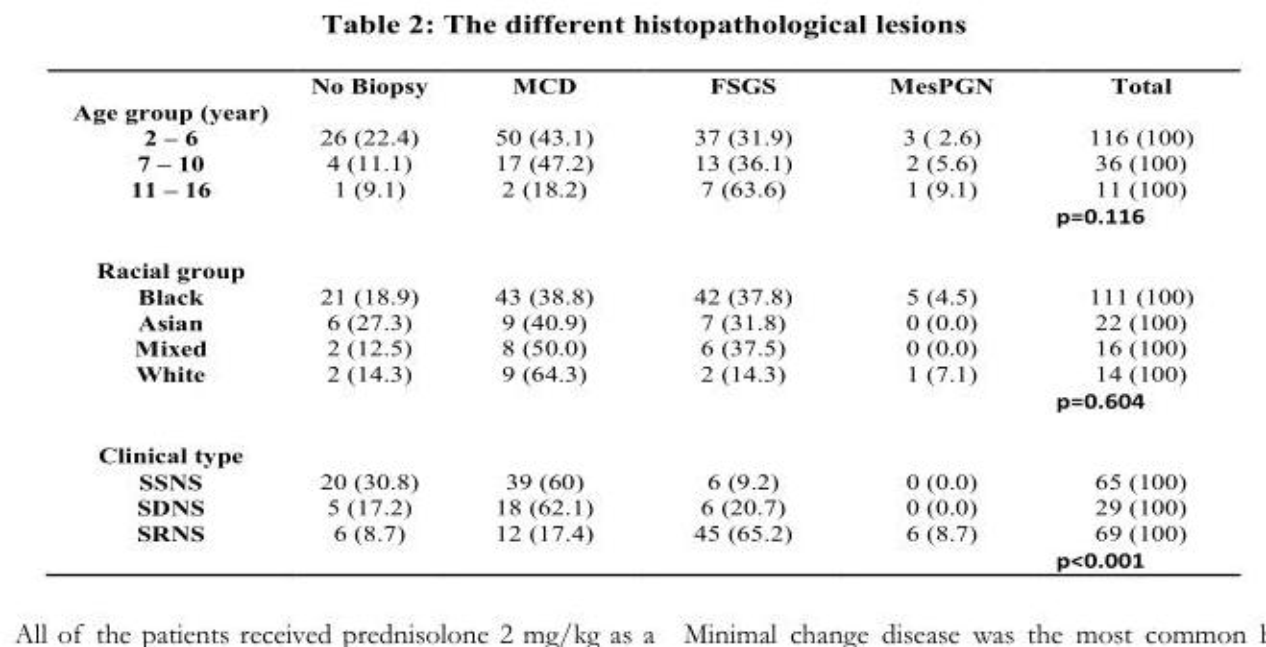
<table><thead><tr><td></td><td>No Biopsy</td><td>MCD</td><td>FSGS</td><td>MesPGN</td><td>Total</td></tr></thead><tbody><tr><td colspan="6">Age group (year)</td></tr><tr><td>2 – 6</td><td>26 (22.4)</td><td>50 (43.1)</td><td>37 (31.9)</td><td>3 ( 2.6)</td><td>116 (100)</td></tr><tr><td>7 – 10</td><td>4 (11.1)</td><td>17 (47.2)</td><td>13 (36.1)</td><td>2 (5.6)</td><td>36 (100)</td></tr><tr><td rowspan="2">11 – 16</td><td>1 (9.1)</td><td>2 (18.2)</td><td>7 (63.6)</td><td>1 (9.1)</td><td>11 (100)</td></tr><tr><td></td><td></td><td></td><td></td><td>p=0.116</td></tr><tr><td colspan="6">Racial group</td></tr><tr><td>Black</td><td>21 (18.9)</td><td>43 (38.8)</td><td>42 (37.8)</td><td>5 (4.5)</td><td>111 (100)</td></tr><tr><td>Asian</td><td>6 (27.3)</td><td>9 (40.9)</td><td>7 (31.8)</td><td>0 (0.0)</td><td>22 (100)</td></tr><tr><td>Mixed</td><td>2 (12.5)</td><td>8 (50.0)</td><td>6 (37.5)</td><td>0 (0.0)</td><td>16 (100)</td></tr><tr><td rowspan="2">White</td><td>2 (14.3)</td><td>9 (64.3)</td><td>2 (14.3)</td><td>1 (7.1)</td><td>14 (100)</td></tr><tr><td></td><td></td><td></td><td></td><td>p=0.604</td></tr><tr><td colspan="6">Clinical type</td></tr><tr><td>SSNS</td><td>20 (30.8)</td><td>39 (60)</td><td>6 (9.2)</td><td>0 (0.0)</td><td>65 (100)</td></tr><tr><td>SDNS</td><td>5 (17.2)</td><td>18 (62.1)</td><td>6 (20.7)</td><td>0 (0.0)</td><td>29 (100)</td></tr><tr><td rowspan="2">SRNS</td><td>6 (8.7)</td><td>12 (17.4)</td><td>45 (65.2)</td><td>6 (8.7)</td><td>69 (100)</td></tr><tr><td></td><td></td><td></td><td></td><td>p&lt;0.001</td></tr></tbody></table>